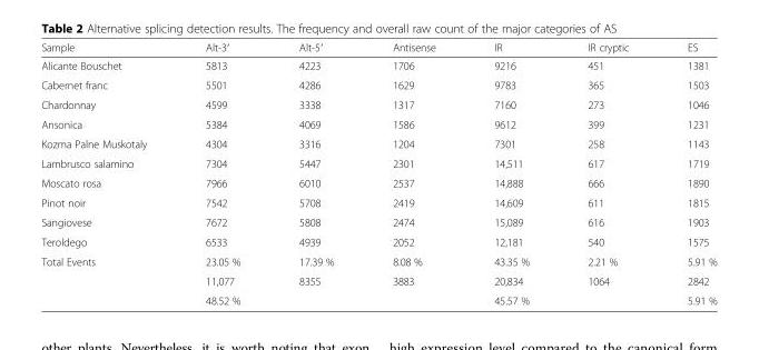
<table><thead><tr><td>Sample</td><td>Alt-3′</td><td>Alt-5′</td><td>Antisense</td><td>IR</td><td>IR cryptic</td><td>ES</td></tr></thead><tbody><tr><td>Alicante Bouschet</td><td>5813</td><td>4223</td><td>1706</td><td>9216</td><td>451</td><td>1381</td></tr><tr><td>Cabernet franc</td><td>5501</td><td>4286</td><td>1629</td><td>9783</td><td>365</td><td>1503</td></tr><tr><td>Chardonnay</td><td>4599</td><td>3338</td><td>1317</td><td>7160</td><td>273</td><td>1046</td></tr><tr><td>Ansonica</td><td>5384</td><td>4069</td><td>1586</td><td>9612</td><td>399</td><td>1231</td></tr><tr><td>Kozma Palne Muskotaly</td><td>4304</td><td>3316</td><td>1204</td><td>7301</td><td>258</td><td>1143</td></tr><tr><td>Lambrusco salamino</td><td>7304</td><td>5447</td><td>2301</td><td>14,511</td><td>617</td><td>1719</td></tr><tr><td>Moscato rosa</td><td>7966</td><td>6010</td><td>2537</td><td>14,888</td><td>666</td><td>1890</td></tr><tr><td>Pinot noir</td><td>7542</td><td>5708</td><td>2419</td><td>14,609</td><td>611</td><td>1815</td></tr><tr><td>Sangiovese</td><td>7672</td><td>5808</td><td>2474</td><td>15,089</td><td>616</td><td>1903</td></tr><tr><td>Teroldego</td><td>6533</td><td>4939</td><td>2052</td><td>12,181</td><td>540</td><td>1575</td></tr><tr><td rowspan="3">Total Events</td><td>23.05 %</td><td>17.39 %</td><td>8.08 %</td><td>43.35 %</td><td>2.21 %</td><td>5.91 %</td></tr><tr><td>11,077</td><td>8355</td><td>3883</td><td>20,834</td><td>1064</td><td>2842</td></tr><tr><td colspan="3">48.52 %</td><td colspan="2">45.57 %</td><td>5.91 %</td></tr></tbody></table>